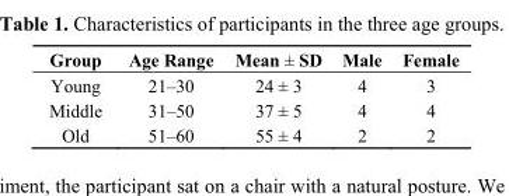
<table><thead><tr><td>Group</td><td>Age Range</td><td>Mean ± SD</td><td>Male</td><td>Female</td></tr></thead><tbody><tr><td>Young</td><td>21–30</td><td>24 ± 3</td><td>4</td><td>3</td></tr><tr><td>Middle</td><td>31–50</td><td>37 ± 5</td><td>4</td><td>4</td></tr><tr><td>Old</td><td>51–60</td><td>55 ± 4</td><td>2</td><td>2</td></tr></tbody></table>